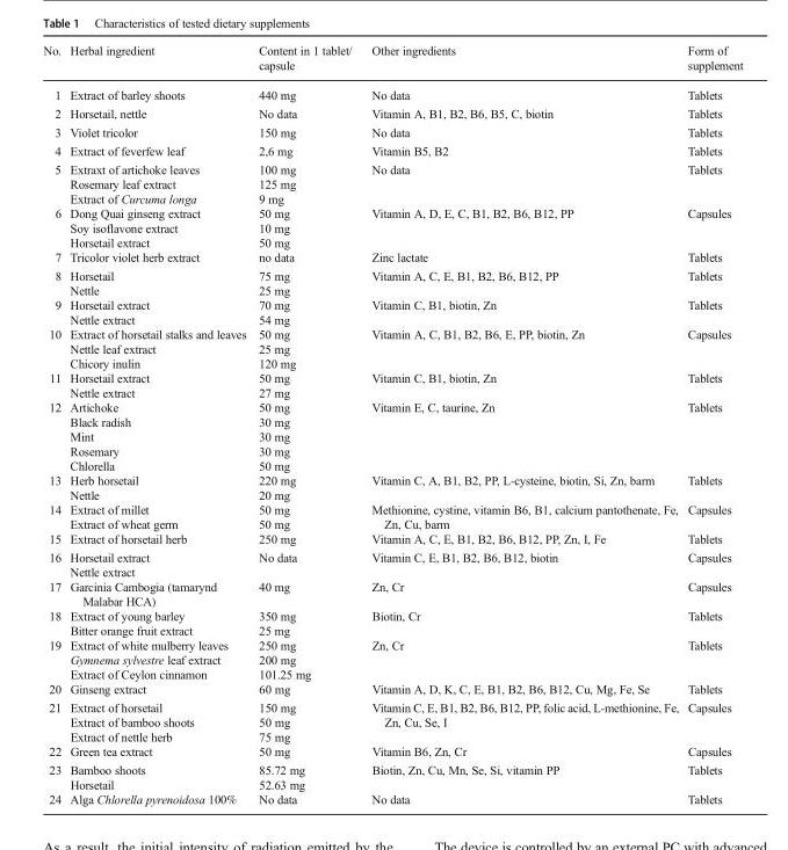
<table><thead><tr><td>No.</td><td>Herbal ingredient</td><td>Content in 1 tablet/ capsule</td><td>Other ingredients</td><td>Form of supplement</td></tr></thead><tbody><tr><td>1</td><td>Extract of barley shoots</td><td>440 mg</td><td>No data</td><td>Tablets</td></tr><tr><td>2</td><td>Horsetail, nettle</td><td>No data</td><td>Vitamin A, B1, B2, B6, B5, C, biotin</td><td>Tablets</td></tr><tr><td>3</td><td>Violet tricolor</td><td>150 mg</td><td>No data</td><td>Tablets</td></tr><tr><td>4</td><td>Extract of feverfew leaf</td><td>2,6 mg</td><td>Vitamin B5, B2</td><td>Tablets</td></tr><tr><td>5</td><td>Extraxt of artichoke leaves Rosemary leaf extract Extract of Curcuma longa</td><td>100 mg 125 mg 9 mg</td><td>No data</td><td>Tablets</td></tr><tr><td>6</td><td>Dong Quai ginseng extract Soy isoflavone extract Horsetail extract</td><td>50 mg 10 mg 50 mg</td><td>Vitamin A, D, E, C, B1, B2, B6, B12, PP</td><td>Capsules</td></tr><tr><td>7</td><td>Tricolor violet herb extract</td><td>no data</td><td>Zinc lactate</td><td>Tablets</td></tr><tr><td>8</td><td>Horsetail Nettle</td><td>75 mg 25 mg</td><td>Vitamin A, C, E, B1, B2, B6, B12, PP</td><td>Tablets</td></tr><tr><td>9</td><td>Horsetail extract Nettle extract</td><td>70 mg 54 mg</td><td>Vitamin C, B1, biotin, Zn</td><td>Tablets</td></tr><tr><td>10</td><td>Extract of horsetail stalks and leaves Nettle leaf extract Chicory inulin</td><td>50 mg 25 mg 120 mg</td><td>Vitamin A, C, B1, B2, B6, E, PP, biotin, Zn</td><td>Capsules</td></tr><tr><td>11</td><td>Horsetail extract Nettle extract</td><td>50 mg 27 mg</td><td>Vitamin C, B1, biotin, Zn</td><td>Tablets</td></tr><tr><td>12</td><td>Artichoke Black radish Mint Rosemary Chlorella</td><td>50 mg 30 mg 30 mg 30 mg 50 mg</td><td>Vitamin E, C, taurine, Zn</td><td>Tablets</td></tr><tr><td>13</td><td>Herb horsetail Nettle</td><td>220 mg 20 mg</td><td>Vitamin C, A, B1, B2, PP, L-cysteine, biotin, Si, Zn, barm</td><td>Tablets</td></tr><tr><td>14</td><td>Extract of millet Extract of wheat germ</td><td>50 mg 50 mg</td><td>Methionine, cystine, vitamin B6, B1, calcium pantothenate, Fe, Zn, Cu, barm</td><td>Capsules</td></tr><tr><td>15</td><td>Extract of horsetail herb</td><td>250 mg</td><td>Vitamin A, C, E, B1, B2, B6, B12, PP, Zn, I, Fe</td><td>Tablets</td></tr><tr><td>16</td><td>Horsetail extract Nettle extract</td><td>No data</td><td>Vitamin C, E, B1, B2, B6, B12, biotin</td><td>Capsules</td></tr><tr><td>17</td><td>Garcinia Cambogia (tamarynd Malabar HCA)</td><td>40 mg</td><td>Zn, Cr</td><td>Capsules</td></tr><tr><td>18</td><td>Extract of young barley Bitter orange fruit extract</td><td>350 mg 25 mg</td><td>Biotin, Cr</td><td>Tablets</td></tr><tr><td>19</td><td>Extract of white mulberry leaves Gymnema sylvestre leaf extract Extract of Ceylon cinnamon</td><td>250 mg 200 mg 101.25 mg</td><td>Zn, Cr</td><td>Tablets</td></tr><tr><td>20</td><td>Ginseng extract</td><td>60 mg</td><td>Vitamin A, D, K, C, E, B1, B2, B6, B12, Cu, Mg, Fe, Se</td><td>Tablets</td></tr><tr><td>21</td><td>Extract of horsetail Extract of bamboo shoots Extract of nettle herb</td><td>150 mg 50 mg 75 mg</td><td>Vitamin C, E, B1, B2, B6, B12, PP, folic acid, L-methionine, Fe, Zn, Cu, Se, I</td><td>Capsules</td></tr><tr><td>22</td><td>Green tea extract</td><td>50 mg</td><td>Vitamin B6, Zn, Cr</td><td>Capsules</td></tr><tr><td>23</td><td>Bamboo shoots Horsetail</td><td>85.72 mg 52.63 mg</td><td>Biotin, Zn, Cu, Mn, Se, Si, vitamin PP</td><td>Tablets</td></tr><tr><td>24</td><td>Alga Chlorella pyrenoidosa 100%</td><td>No data</td><td>No data</td><td>Tablets</td></tr></tbody></table>